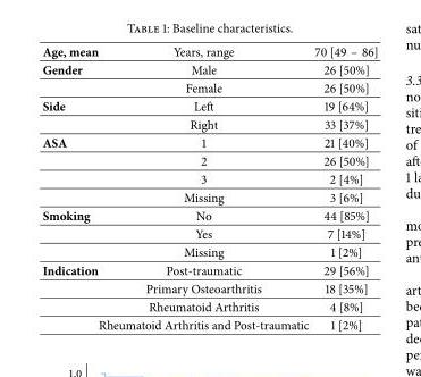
<table><tbody><tr><td>Age, mean</td><td>Years, range</td><td>70 [49 – 86]</td></tr><tr><td rowspan="2">Gender</td><td>Male</td><td>26 [50%]</td></tr><tr><td>Female</td><td>26 [50%]</td></tr><tr><td rowspan="2">Side</td><td>Left</td><td>19 [64%]</td></tr><tr><td>Right</td><td>33 [37%]</td></tr><tr><td rowspan="4">ASA</td><td>1</td><td>21 [40%]</td></tr><tr><td>2</td><td>26 [50%]</td></tr><tr><td>3</td><td>2 [4%]</td></tr><tr><td>Missing</td><td>3 [6%]</td></tr><tr><td rowspan="3">Smoking</td><td>No</td><td>44 [85%]</td></tr><tr><td>Yes</td><td>7 [14%]</td></tr><tr><td>Missing</td><td>1 [2%]</td></tr><tr><td rowspan="4">Indication</td><td>Post-traumatic</td><td>29 [56%]</td></tr><tr><td>Primary Osteoarthritis</td><td>18 [35%]</td></tr><tr><td>Rheumatoid Arthritis</td><td>4 [8%]</td></tr><tr><td>Rheumatoid Arthritis and Post-traumatic</td><td>1 [2%]</td></tr></tbody></table>